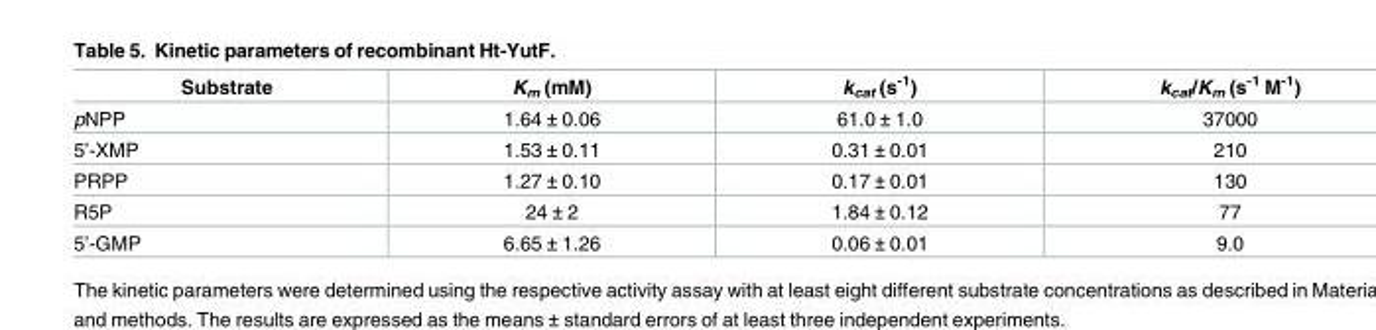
<table><thead><tr><td>Substrate</td><td>K<sub>m</sub> (mM)</td><td>k<sub>cat</sub> (s<sup>-1</sup>)</td><td>k<sub>cat</sub>/K<sub>m</sub> (s<sup>-1</sup> M<sup>-1</sup>)</td></tr></thead><tbody><tr><td>pNPP</td><td>1.64 ± 0.06</td><td>61.0 ± 1.0</td><td>37000</td></tr><tr><td>5’-XMP</td><td>1.53 ± 0.11</td><td>0.31 ± 0.01</td><td>210</td></tr><tr><td>PRPP</td><td>1.27 ± 0.10</td><td>0.17 ± 0.01</td><td>130</td></tr><tr><td>R5P</td><td>24 ± 2</td><td>1.84 ± 0.12</td><td>77</td></tr><tr><td>5’-GMP</td><td>6.65 ± 1.26</td><td>0.06 ± 0.01</td><td>9.0</td></tr></tbody></table>